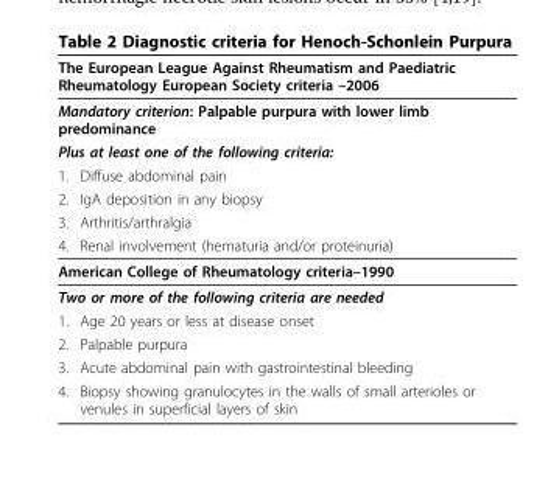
<table><thead><tr><td rowspan="3" colspan="2">The European League Against Rheumatism and Paediatric Rheumatology European Society criteria –2006 Mandatory criterion: Palpable purpura with lower limb predominance Plus at least one of the following criteria:</td></tr><tr></tr><tr></tr><tr><td>1.</td><td>Diffuse abdominal pain</td></tr></thead><tbody><tr><td>2.</td><td>IgA deposition in any biopsy</td></tr><tr><td>3.</td><td>Arthritis/arthralgia</td></tr><tr><td>4.</td><td>Renal involvement (hematuria and/or proteinuria)</td></tr><tr><td colspan="2">American College of Rheumatology criteria–1990</td></tr><tr><td colspan="2">Two or more of the following criteria are needed</td></tr><tr><td>1.</td><td>Age 20 years or less at disease onset</td></tr><tr><td>2.</td><td>Palpable purpura</td></tr><tr><td>3.</td><td>Acute abdominal pain with gastrointestinal bleeding</td></tr><tr><td>4.</td><td>Biopsy showing granulocytes in the walls of small arterioles or venules in superficial layers of skin</td></tr></tbody></table>